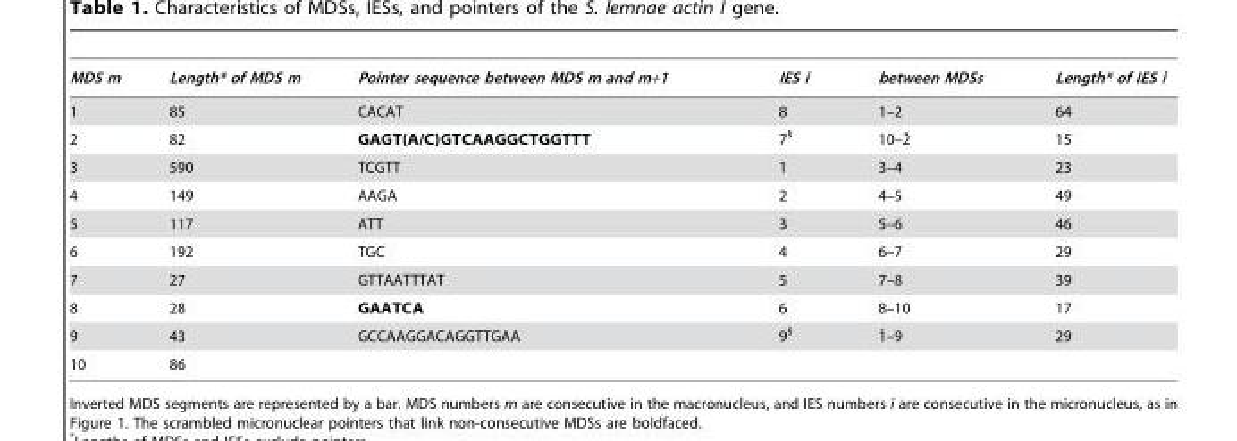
<table><thead><tr><td>MDS m</td><td>Length* of MDS m</td><td>Pointer sequence between MDS m and m+1</td><td>IES i</td><td>between MDSs</td><td>Length* of IES i</td></tr></thead><tbody><tr><td>1</td><td>85</td><td>CACAT</td><td>8</td><td>1–2</td><td>64</td></tr><tr><td>2</td><td>82</td><td>GAGT(A/C)GTCAAGGCTGGTTT</td><td>7§</td><td>10–2¯</td><td>15</td></tr><tr><td>3</td><td>590</td><td>TCGTT</td><td>1</td><td>3–4</td><td>23</td></tr><tr><td>4</td><td>149</td><td>AAGA</td><td>2</td><td>4–5</td><td>49</td></tr><tr><td>5</td><td>117</td><td>ATT</td><td>3</td><td>5–6</td><td>46</td></tr><tr><td>6</td><td>192</td><td>TGC</td><td>4</td><td>6–7</td><td>29</td></tr><tr><td>7</td><td>27</td><td>GTTAATTTAT</td><td>5</td><td>7–8</td><td>39</td></tr><tr><td>8</td><td>28</td><td>GAATCA</td><td>6</td><td>8–10</td><td>17</td></tr><tr><td>9</td><td>43</td><td>GCCAAGGACAGGTTGAA</td><td>9§</td><td>1¯–9</td><td>29</td></tr><tr><td>10</td><td>86</td><td></td><td></td><td></td><td></td></tr></tbody></table>